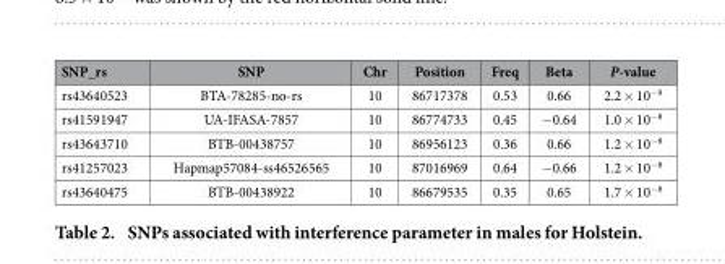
<table><thead><tr><td>SNP_rs</td><td>SNP</td><td>Chr</td><td>Position</td><td>Freq</td><td>Beta</td><td>P-value</td></tr></thead><tbody><tr><td>rs43640523</td><td>BTA-78285-no-rs</td><td>10</td><td>86717378</td><td>0.53</td><td>0.66</td><td>2.2 × 10<sup>−9</sup></td></tr><tr><td>rs41591947</td><td>UA-IFASA-7857</td><td>10</td><td>86774733</td><td>0.45</td><td>− 0.64</td><td>1.0 × 10<sup>−8</sup></td></tr><tr><td>rs43643710</td><td>BTB-00438757</td><td>10</td><td>86956123</td><td>0.36</td><td>0.66</td><td>1.2 × 10<sup>−8</sup></td></tr><tr><td>rs41257023</td><td>Hapmap57084-ss46526565</td><td>10</td><td>87016969</td><td>0.64</td><td>− 0.66</td><td>1.2 × 10<sup>−8</sup></td></tr><tr><td>rs43640475</td><td>BTB-00438922</td><td>10</td><td>86679535</td><td>0.35</td><td>0.65</td><td>1.7 × 10<sup>−8</sup></td></tr></tbody></table>